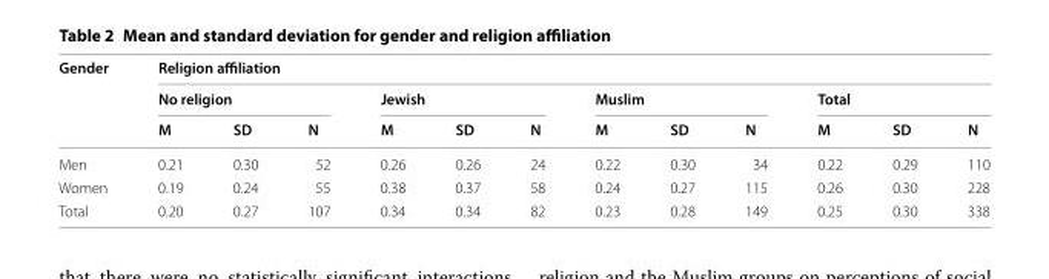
<table><thead><tr><td rowspan="3">Gender</td><td colspan="12">Religion affiliation</td></tr><tr><td colspan="3">No religion</td><td colspan="3">Jewish</td><td colspan="3">Muslim</td><td colspan="3">Total</td></tr><tr><td>M</td><td>SD</td><td>N</td><td>M</td><td>SD</td><td>N</td><td>M</td><td>SD</td><td>N</td><td>M</td><td>SD</td><td>N</td></tr></thead><tbody><tr><td>Men</td><td>0.21</td><td>0.30</td><td>52</td><td>0.26</td><td>0.26</td><td>24</td><td>0.22</td><td>0.30</td><td>34</td><td>0.22</td><td>0.29</td><td>110</td></tr><tr><td>Women</td><td>0.19</td><td>0.24</td><td>55</td><td>0.38</td><td>0.37</td><td>58</td><td>0.24</td><td>0.27</td><td>115</td><td>0.26</td><td>0.30</td><td>228</td></tr><tr><td>Total</td><td>0.20</td><td>0.27</td><td>107</td><td>0.34</td><td>0.34</td><td>82</td><td>0.23</td><td>0.28</td><td>149</td><td>0.25</td><td>0.30</td><td>338</td></tr></tbody></table>